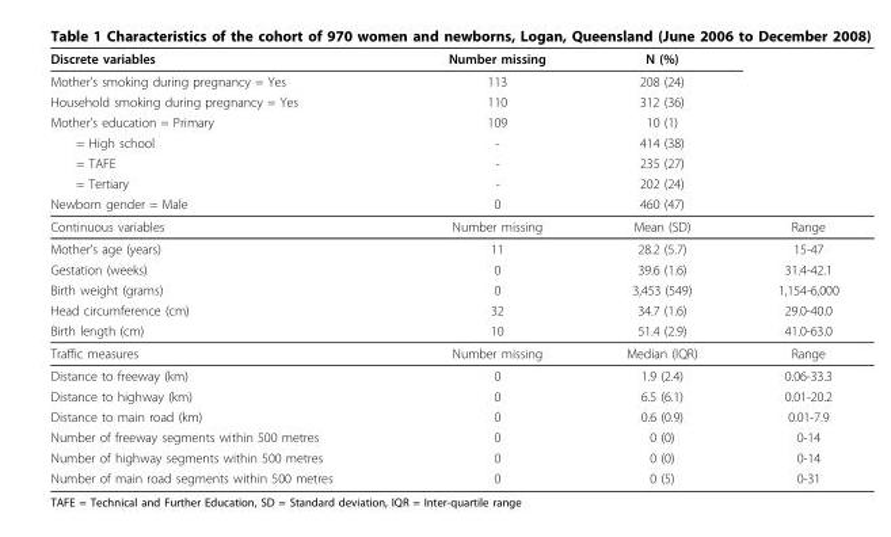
<table><thead><tr><td rowspan="8">Discrete variables Mother’s smoking during pregnancy = Yes Household smoking during pregnancy = Yes Mother’s education = Primary = High school = TAFE = Tertiary Newborn gender = Male</td><td rowspan="8">Number missing 113 110 109 - - - 0</td><td rowspan="8">N (%) 208 (24) 312 (36) 10 (1) 414 (38) 235 (27) 202 (24) 460 (47)</td><td rowspan="8"></td></tr><tr></tr><tr></tr><tr></tr><tr></tr><tr></tr><tr></tr><tr></tr></thead><tbody><tr><td>Continuous variables</td><td>Number missing</td><td>Mean (SD)</td><td>Range</td></tr><tr><td>Mother’s age (years)</td><td>11</td><td>28.2 (5.7)</td><td>15-47</td></tr><tr><td>Gestation (weeks)</td><td>0</td><td>39.6 (1.6)</td><td>31.4-42.1</td></tr><tr><td>Birth weight (grams)</td><td>0</td><td>3,453 (549)</td><td>1,154-6,000</td></tr><tr><td>Head circumference (cm)</td><td>32</td><td>34.7 (1.6)</td><td>29.0-40.0</td></tr><tr><td>Birth length (cm)</td><td>10</td><td>51.4 (2.9)</td><td>41.0-63.0</td></tr><tr><td>Traffic measures</td><td>Number missing</td><td>Median (IQR)</td><td>Range</td></tr><tr><td>Distance to freeway (km)</td><td>0</td><td>1.9 (2.4)</td><td>0.06-33.3</td></tr><tr><td>Distance to highway (km)</td><td>0</td><td>6.5 (6.1)</td><td>0.01-20.2</td></tr><tr><td>Distance to main road (km)</td><td>0</td><td>0.6 (0.9)</td><td>0.01-7.9</td></tr><tr><td>Number of freeway segments within 500 metres</td><td>0</td><td>0 (0)</td><td>0-14</td></tr><tr><td>Number of highway segments within 500 metres</td><td>0</td><td>0 (0)</td><td>0-14</td></tr><tr><td>Number of main road segments within 500 metres</td><td>0</td><td>0 (5)</td><td>0-31</td></tr></tbody></table>